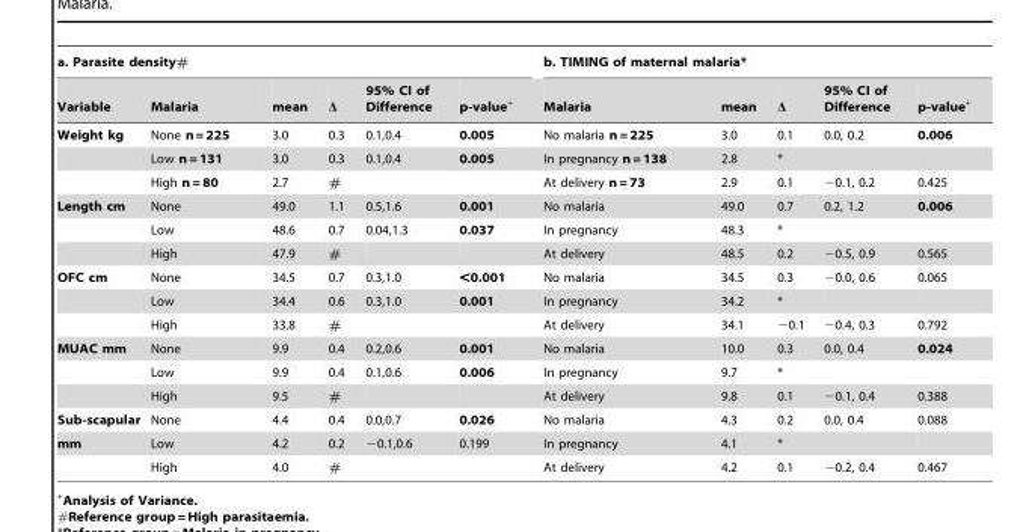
<table><thead><tr><td colspan="6">a. Parasite density#</td><td colspan="5">b. TIMING of maternal malaria*</td></tr><tr><td>Variable</td><td>Malaria</td><td>mean</td><td>Δ</td><td>95% CI of Difference</td><td>p-value+</td><td>Malaria</td><td>mean</td><td>Δ</td><td>95% CI of Difference</td><td>p-value+</td></tr></thead><tbody><tr><td rowspan="3">Weight kg</td><td>None n = 225</td><td>3.0</td><td>0.3</td><td>0.1,0.4</td><td>0.005</td><td>No malaria n = 225</td><td>3.0</td><td>0.1</td><td>0.0, 0.2</td><td>0.006</td></tr><tr><td>Low n = 131</td><td>3.0</td><td>0.3</td><td>0.1,0.4</td><td>0.005</td><td>In pregnancy n = 138</td><td>2.8</td><td>*</td><td></td><td></td></tr><tr><td>High n = 80</td><td>2.7</td><td>#</td><td></td><td></td><td>At delivery n = 73</td><td>2.9</td><td>0.1</td><td>−0.1, 0.2</td><td>0.425</td></tr><tr><td rowspan="3">Length cm</td><td>None</td><td>49.0</td><td>1.1</td><td>0.5,1.6</td><td>0.001</td><td>No malaria</td><td>49.0</td><td>0.7</td><td>0.2, 1.2</td><td>0.006</td></tr><tr><td>Low</td><td>48.6</td><td>0.7</td><td>0.04,1.3</td><td>0.037</td><td>In pregnancy</td><td>48.3</td><td>*</td><td></td><td></td></tr><tr><td>High</td><td>47.9</td><td>#</td><td></td><td></td><td>At delivery</td><td>48.5</td><td>0.2</td><td>−0.5, 0.9</td><td>0.565</td></tr><tr><td rowspan="3">OFC cm</td><td>None</td><td>34.5</td><td>0.7</td><td>0.3,1.0</td><td>&lt;0.001</td><td>No malaria</td><td>34.5</td><td>0.3</td><td>−0.0, 0.6</td><td>0.065</td></tr><tr><td>Low</td><td>34.4</td><td>0.6</td><td>0.3,1.0</td><td>0.001</td><td>In pregnancy</td><td>34.2</td><td>*</td><td></td><td></td></tr><tr><td>High</td><td>33.8</td><td>#</td><td></td><td></td><td>At delivery</td><td>34.1</td><td>−0.1</td><td>−0.4, 0.3</td><td>0.792</td></tr><tr><td rowspan="3">MUAC mm</td><td>None</td><td>9.9</td><td>0.4</td><td>0.2,0.6</td><td>0.001</td><td>No malaria</td><td>10.0</td><td>0.3</td><td>0.0, 0.4</td><td>0.024</td></tr><tr><td>Low</td><td>9.9</td><td>0.4</td><td>0.1,0.6</td><td>0.006</td><td>In pregnancy</td><td>9.7</td><td>*</td><td></td><td></td></tr><tr><td>High</td><td>9.5</td><td>#</td><td></td><td></td><td>At delivery</td><td>9.8</td><td>0.1</td><td>−0.1, 0.4</td><td>0.388</td></tr><tr><td>Sub-scapular</td><td>None</td><td>4.4</td><td>0.4</td><td>0.0,0.7</td><td>0.026</td><td>No malaria</td><td>4.3</td><td>0.2</td><td>0.0, 0.4</td><td>0.088</td></tr><tr><td rowspan="2">mm</td><td>Low</td><td>4.2</td><td>0.2</td><td>−0.1,0.6</td><td>0.199</td><td>In pregnancy</td><td>4.1</td><td>*</td><td></td><td></td></tr><tr><td>High</td><td>4.0</td><td>#</td><td></td><td></td><td>At delivery</td><td>4.2</td><td>0.1</td><td>−0.2, 0.4</td><td>0.467</td></tr></tbody></table>